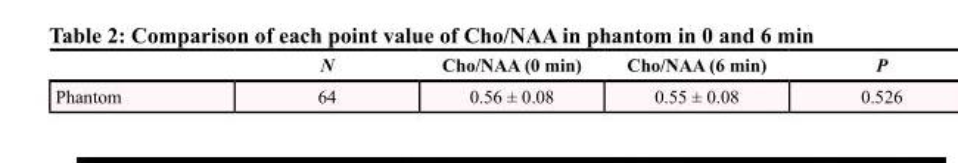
<table><thead><tr><td></td><td>N</td><td>Cho/NAA (0 min)</td><td>Cho/NAA (6 min)</td><td>P</td></tr></thead><tbody><tr><td>Phantom</td><td>64</td><td>0.56 ± 0.08</td><td>0.55 ± 0.08</td><td>0.526</td></tr></tbody></table>